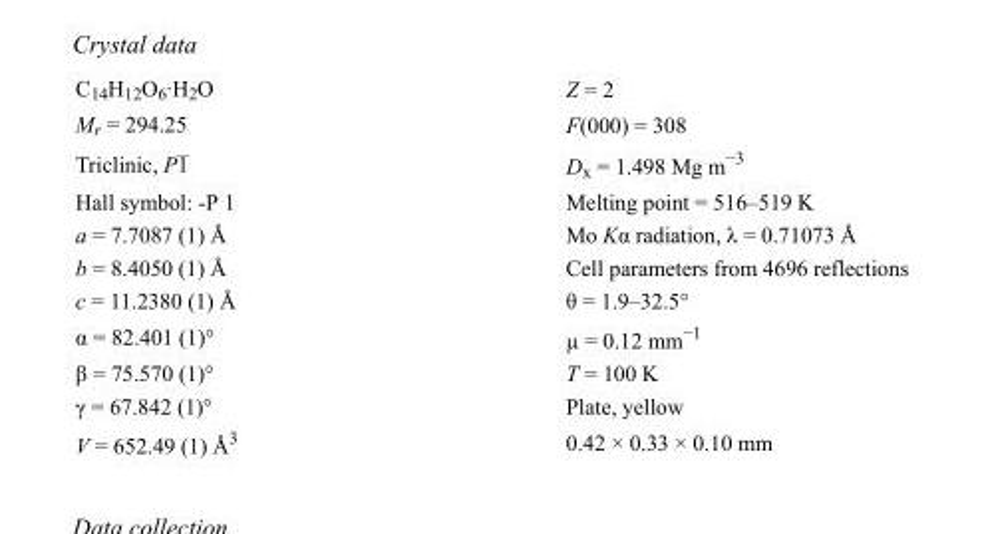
<table><tbody><tr><td>C<sub>14</sub>H<sub>12</sub>O<sub>6</sub>·H<sub>2</sub>O</td><td>Z = 2</td></tr><tr><td>M<sub>r</sub> = 294.25</td><td>F(000) = 308</td></tr><tr><td>Triclinic, P1</td><td>D<sub>x</sub> = 1.498 Mg m<sup>−3</sup></td></tr><tr><td>Hall symbol: -P 1</td><td>Melting point = 516–519 K</td></tr><tr><td>a = 7.7087 (1) Å</td><td>Mo Kα radiation, λ = 0.71073 Å</td></tr><tr><td>b = 8.4050 (1) Å</td><td>Cell parameters from 4696 reflections</td></tr><tr><td>c = 11.2380 (1) Å</td><td>θ = 1.9–32.5°</td></tr><tr><td>α = 82.401 (1)°</td><td>µ = 0.12 mm<sup>−1</sup></td></tr><tr><td>β = 75.570 (1)°</td><td>T = 100 K</td></tr><tr><td>γ = 67.842 (1)°</td><td>Plate, yellow</td></tr><tr><td>V = 652.49 (1) Å<sup>3</sup></td><td>0.42 × 0.33 × 0.10 mm</td></tr></tbody></table>